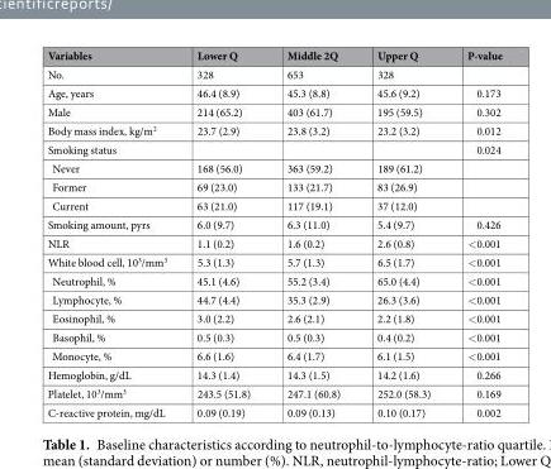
<table><thead><tr><td>Variables</td><td>Lower Q</td><td>Middle 2Q</td><td>Upper Q</td><td>P-value</td></tr></thead><tbody><tr><td>No.</td><td>328</td><td>653</td><td>328</td><td></td></tr><tr><td>Age, years</td><td>46.4 (8.9)</td><td>45.3 (8.8)</td><td>45.6 (9.2)</td><td>0.173</td></tr><tr><td>Male</td><td>214 (65.2)</td><td>403 (61.7)</td><td>195 (59.5)</td><td>0.302</td></tr><tr><td>Body mass index, kg/m<sup>2</sup></td><td>23.7 (2.9)</td><td>23.8 (3.2)</td><td>23.2 (3.2)</td><td>0.012</td></tr><tr><td>Smoking status</td><td></td><td></td><td></td><td>0.024</td></tr><tr><td>Never</td><td>168 (56.0)</td><td>363 (59.2)</td><td>189 (61.2)</td><td></td></tr><tr><td>Former</td><td>69 (23.0)</td><td>133 (21.7)</td><td>83 (26.9)</td><td></td></tr><tr><td>Current</td><td>63 (21.0)</td><td>117 (19.1)</td><td>37 (12.0)</td><td></td></tr><tr><td>Smoking amount, pyrs</td><td>6.0 (9.7)</td><td>6.3 (11.0)</td><td>5.4 (9.7)</td><td>0.426</td></tr><tr><td>NLR</td><td>1.1 (0.2)</td><td>1.6 (0.2)</td><td>2.6 (0.8)</td><td>&lt;0.001</td></tr><tr><td>White blood cell, 10<sup>3</sup>/mm<sup>3</sup></td><td>5.3 (1.3)</td><td>5.7 (1.3)</td><td>6.5 (1.7)</td><td>&lt;0.001</td></tr><tr><td>Neutrophil, %</td><td>45.1 (4.6)</td><td>55.2 (3.4)</td><td>65.0 (4.4)</td><td>&lt;0.001</td></tr><tr><td>Lymphocyte, %</td><td>44.7 (4.4)</td><td>35.3 (2.9)</td><td>26.3 (3.6)</td><td>&lt;0.001</td></tr><tr><td>Eosinophil, %</td><td>3.0 (2.2)</td><td>2.6 (2.1)</td><td>2.2 (1.8)</td><td>&lt;0.001</td></tr><tr><td>Basophil, %</td><td>0.5 (0.3)</td><td>0.5 (0.3)</td><td>0.4 (0.2)</td><td>&lt;0.001</td></tr><tr><td>Monocyte, %</td><td>6.6 (1.6)</td><td>6.4 (1.7)</td><td>6.1 (1.5)</td><td>&lt;0.001</td></tr><tr><td>Hemoglobin, g/dL</td><td>14.3 (1.4)</td><td>14.3 (1.5)</td><td>14.2 (1.6)</td><td>0.266</td></tr><tr><td>Platelet, 10<sup>3</sup>/mm<sup>3</sup></td><td>243.5 (51.8)</td><td>247.1 (60.8)</td><td>252.0 (58.3)</td><td>0.169</td></tr><tr><td>C-reactive protein, mg/dL</td><td>0.09 (0.19)</td><td>0.09 (0.13)</td><td>0.10 (0.17)</td><td>0.002</td></tr></tbody></table>